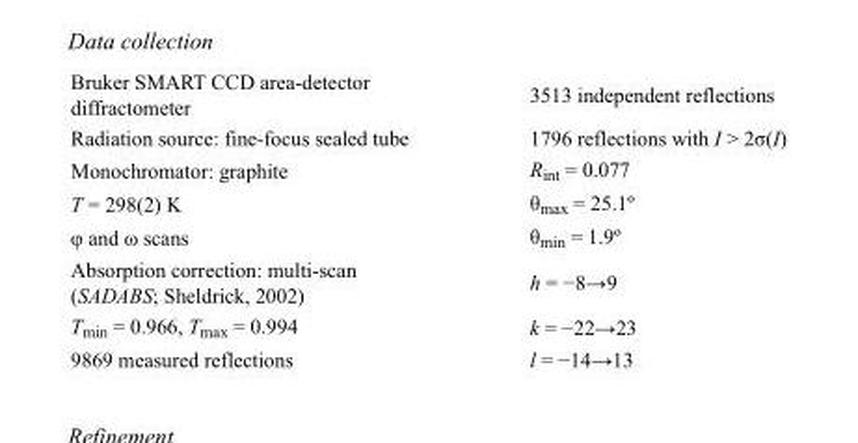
<table><tbody><tr><td>Bruker SMART CCD area-detector diffractometer</td><td>3513 independent reflections</td></tr><tr><td>Radiation source: fine-focus sealed tube</td><td>1796 reflections with I &gt; 2σ(I)</td></tr><tr><td>Monochromator: graphite</td><td>R<sub>int</sub> = 0.077</td></tr><tr><td>T = 298(2) K</td><td>θ<sub>max</sub> = 25.1º</td></tr><tr><td>φ and ω scans</td><td>θ<sub>min</sub> = 1.9º</td></tr><tr><td>Absorption correction: multi-scan (SADABS; Sheldrick, 2002)</td><td>h = −8→9</td></tr><tr><td>T<sub>min</sub> = 0.966, T<sub>max</sub> = 0.994</td><td>k = −22→23</td></tr><tr><td>9869 measured reflections</td><td>l = −14→13</td></tr></tbody></table>